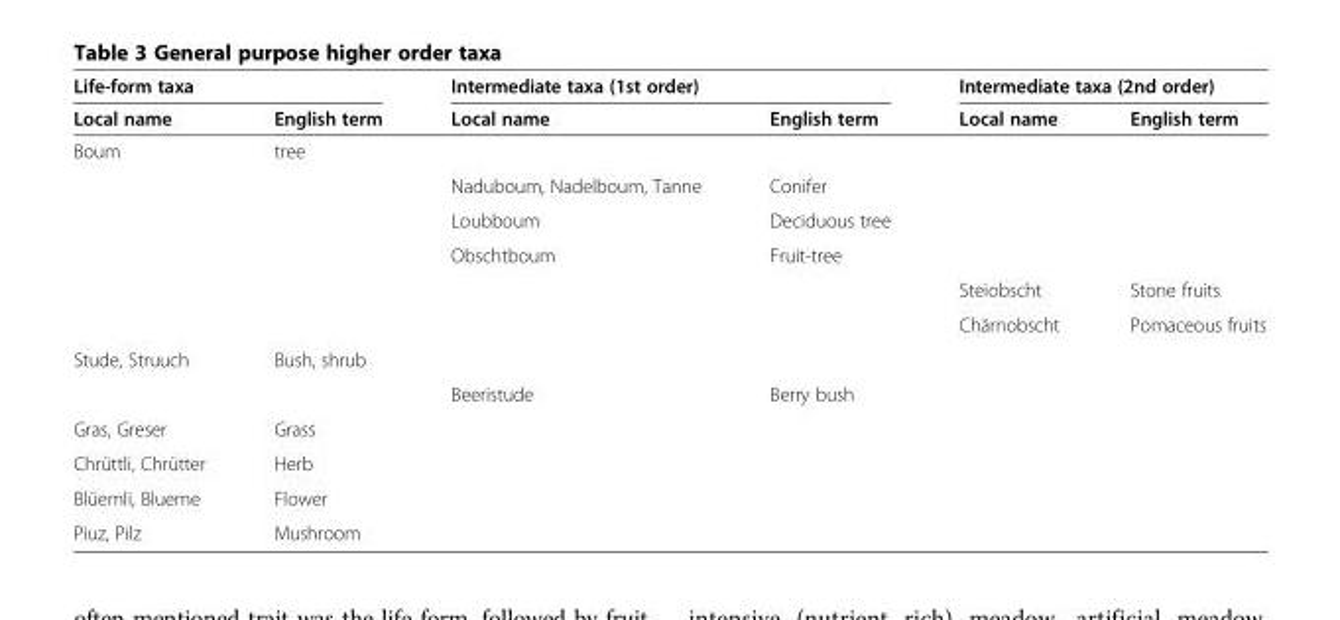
<table><thead><tr><td colspan="2">Life-form taxa</td><td colspan="2">Intermediate taxa (1st order)</td><td colspan="2">Intermediate taxa (2nd order)</td></tr><tr><td>Local name</td><td>English term</td><td>Local name</td><td>English term</td><td>Local name</td><td>English term</td></tr></thead><tbody><tr><td rowspan="6">Boum</td><td>tree</td><td></td><td></td><td></td><td></td></tr><tr><td></td><td>Naduboum, Nadelboum, Tanne</td><td>Conifer</td><td></td><td></td></tr><tr><td></td><td>Loubboum</td><td>Deciduous tree</td><td></td><td></td></tr><tr><td></td><td>Obschtboum</td><td>Fruit-tree</td><td></td><td></td></tr><tr><td></td><td></td><td></td><td>Steiobscht</td><td>Stone fruits</td></tr><tr><td></td><td></td><td></td><td>Chärnobscht</td><td>Pomaceous fruits</td></tr><tr><td rowspan="2">Stude, Struuch</td><td>Bush, shrub</td><td></td><td></td><td></td><td></td></tr><tr><td></td><td>Beeristude</td><td>Berry bush</td><td></td><td></td></tr><tr><td>Gras, Greser</td><td>Grass</td><td></td><td></td><td></td><td></td></tr><tr><td>Chrüttli, Chrütter</td><td>Herb</td><td></td><td></td><td></td><td></td></tr><tr><td>Blüemli, Blueme</td><td>Flower</td><td></td><td></td><td></td><td></td></tr><tr><td>Piuz, Pilz</td><td>Mushroom</td><td></td><td></td><td></td><td></td></tr></tbody></table>